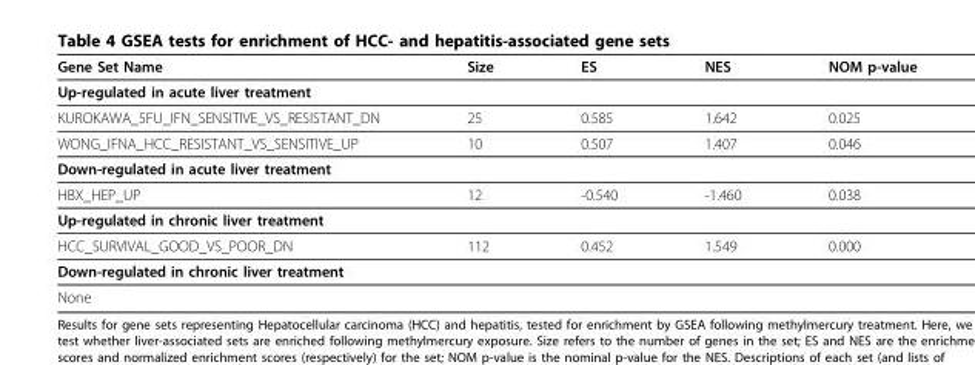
<table><thead><tr><td>Gene Set Name</td><td>Size</td><td>ES</td><td>NES</td><td>NOM p-value</td></tr></thead><tbody><tr><td colspan="5">Up-regulated in acute liver treatment</td></tr><tr><td>KUROKAWA_5FU_IFN_SENSITIVE_VS_RESISTANT_DN</td><td>25</td><td>0.585</td><td>1.642</td><td>0.025</td></tr><tr><td>WONG_IFNA_HCC_RESISTANT_VS_SENSITIVE_UP</td><td>10</td><td>0.507</td><td>1.407</td><td>0.046</td></tr><tr><td colspan="5">Down-regulated in acute liver treatment</td></tr><tr><td>HBX_HEP_UP</td><td>12</td><td>-0.540</td><td>-1.460</td><td>0.038</td></tr><tr><td colspan="5">Up-regulated in chronic liver treatment</td></tr><tr><td>HCC_SURVIVAL_GOOD_VS_POOR_DN</td><td>112</td><td>0.452</td><td>1.549</td><td>0.000</td></tr><tr><td colspan="5">Down-regulated in chronic liver treatment</td></tr><tr><td>None</td><td></td><td></td><td></td><td></td></tr></tbody></table>